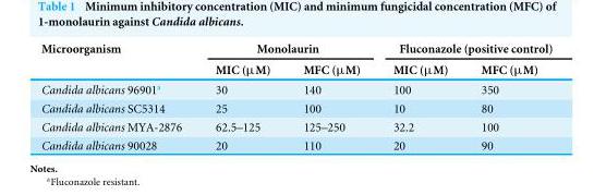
<table><thead><tr><td rowspan="2">Microorganism</td><td colspan="2">Monolaurin</td><td colspan="2">Fluconazole (positive control)</td></tr><tr><td>MIC (µM)</td><td>MFC (µM)</td><td>MIC (µM)</td><td>MFC (µM)</td></tr></thead><tbody><tr><td>Candida albicans 96901<sup>a</sup></td><td>30</td><td>140</td><td>100</td><td>350</td></tr><tr><td>Candida albicans SC5314</td><td>25</td><td>100</td><td>10</td><td>80</td></tr><tr><td>Candida albicans MYA-2876</td><td>62.5–125</td><td>125–250</td><td>32.2</td><td>100</td></tr><tr><td>Candida albicans 90028</td><td>20</td><td>110</td><td>20</td><td>90</td></tr></tbody></table>